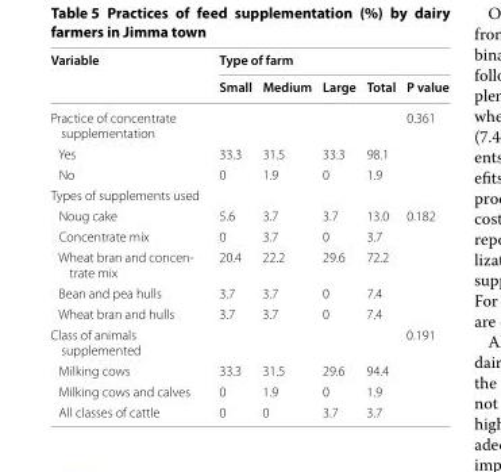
<table><thead><tr><td rowspan="2">Variable</td><td colspan="5">Type of farm</td></tr><tr><td>Small</td><td>Medium</td><td>Large</td><td>Total</td><td>P value</td></tr></thead><tbody><tr><td>Practice of concentrate supplementation</td><td></td><td></td><td></td><td></td><td>0.361</td></tr><tr><td>Yes</td><td>33.3</td><td>31.5</td><td>33.3</td><td>98.1</td><td></td></tr><tr><td>No</td><td>0</td><td>1.9</td><td>0</td><td>1.9</td><td></td></tr><tr><td colspan="6">Types of supplements used</td></tr><tr><td>Noug cake</td><td>5.6</td><td>3.7</td><td>3.7</td><td>13.0</td><td>0.182</td></tr><tr><td>Concentrate mix</td><td>0</td><td>3.7</td><td>0</td><td>3.7</td><td></td></tr><tr><td>Wheat bran and concen- trate mix</td><td>20.4</td><td>22.2</td><td>29.6</td><td>72.2</td><td></td></tr><tr><td>Bean and pea hulls</td><td>3.7</td><td>3.7</td><td>0</td><td>7.4</td><td></td></tr><tr><td>Wheat bran and hulls</td><td>3.7</td><td>3.7</td><td>0</td><td>7.4</td><td></td></tr><tr><td>Class of animals supplemented</td><td></td><td></td><td></td><td></td><td>0.191</td></tr><tr><td>Milking cows</td><td>33.3</td><td>31.5</td><td>29.6</td><td>94.4</td><td></td></tr><tr><td>Milking cows and calves</td><td>0</td><td>1.9</td><td>0</td><td>1.9</td><td></td></tr><tr><td>All classes of cattle</td><td>0</td><td>0</td><td>3.7</td><td>3.7</td><td></td></tr></tbody></table>